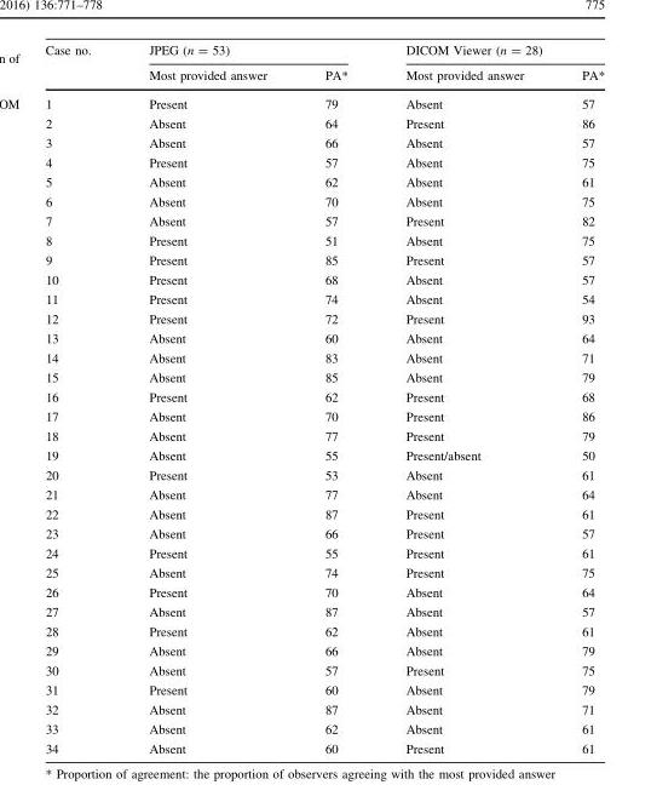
<table><thead><tr><td rowspan="2">Case no.</td><td colspan="2">JPEG (n = 53)</td><td colspan="2">DICOM Viewer (n = 28)</td></tr><tr><td>Most provided answer</td><td>PA*</td><td>Most provided answer</td><td>PA*</td></tr></thead><tbody><tr><td>1</td><td>Present</td><td>79</td><td>Absent</td><td>57</td></tr><tr><td>2</td><td>Absent</td><td>64</td><td>Present</td><td>86</td></tr><tr><td>3</td><td>Absent</td><td>66</td><td>Absent</td><td>57</td></tr><tr><td>4</td><td>Present</td><td>57</td><td>Absent</td><td>75</td></tr><tr><td>5</td><td>Absent</td><td>62</td><td>Absent</td><td>61</td></tr><tr><td>6</td><td>Absent</td><td>70</td><td>Absent</td><td>75</td></tr><tr><td>7</td><td>Absent</td><td>57</td><td>Present</td><td>82</td></tr><tr><td>8</td><td>Present</td><td>51</td><td>Absent</td><td>75</td></tr><tr><td>9</td><td>Present</td><td>85</td><td>Present</td><td>57</td></tr><tr><td>10</td><td>Present</td><td>68</td><td>Absent</td><td>57</td></tr><tr><td>11</td><td>Present</td><td>74</td><td>Absent</td><td>54</td></tr><tr><td>12</td><td>Present</td><td>72</td><td>Present</td><td>93</td></tr><tr><td>13</td><td>Absent</td><td>60</td><td>Absent</td><td>64</td></tr><tr><td>14</td><td>Absent</td><td>83</td><td>Absent</td><td>71</td></tr><tr><td>15</td><td>Absent</td><td>85</td><td>Absent</td><td>79</td></tr><tr><td>16</td><td>Present</td><td>62</td><td>Present</td><td>68</td></tr><tr><td>17</td><td>Absent</td><td>70</td><td>Present</td><td>86</td></tr><tr><td>18</td><td>Absent</td><td>77</td><td>Present</td><td>79</td></tr><tr><td>19</td><td>Absent</td><td>55</td><td>Present/absent</td><td>50</td></tr><tr><td>20</td><td>Present</td><td>53</td><td>Absent</td><td>61</td></tr><tr><td>21</td><td>Absent</td><td>77</td><td>Absent</td><td>64</td></tr><tr><td>22</td><td>Absent</td><td>87</td><td>Present</td><td>61</td></tr><tr><td>23</td><td>Absent</td><td>66</td><td>Present</td><td>57</td></tr><tr><td>24</td><td>Present</td><td>55</td><td>Present</td><td>61</td></tr><tr><td>25</td><td>Absent</td><td>74</td><td>Present</td><td>75</td></tr><tr><td>26</td><td>Present</td><td>70</td><td>Absent</td><td>64</td></tr><tr><td>27</td><td>Absent</td><td>87</td><td>Absent</td><td>57</td></tr><tr><td>28</td><td>Present</td><td>62</td><td>Absent</td><td>61</td></tr><tr><td>29</td><td>Absent</td><td>66</td><td>Absent</td><td>79</td></tr><tr><td>30</td><td>Absent</td><td>57</td><td>Present</td><td>75</td></tr><tr><td>31</td><td>Present</td><td>60</td><td>Absent</td><td>79</td></tr><tr><td>32</td><td>Absent</td><td>87</td><td>Absent</td><td>71</td></tr><tr><td>33</td><td>Absent</td><td>62</td><td>Absent</td><td>61</td></tr><tr><td>34</td><td>Absent</td><td>60</td><td>Present</td><td>61</td></tr></tbody></table>